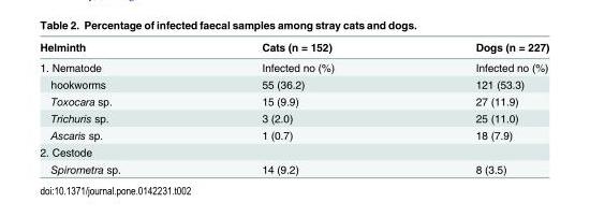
<table><thead><tr><td>Helminth</td><td>Cats (n = 152)</td><td>Dogs (n = 227)</td></tr></thead><tbody><tr><td>1. Nematode</td><td>Infected no (%)</td><td>Infected no (%)</td></tr><tr><td>hookworms</td><td>55 (36.2)</td><td>121 (53.3)</td></tr><tr><td>Toxocara sp.</td><td>15 (9.9)</td><td>27 (11.9)</td></tr><tr><td>Trichuris sp.</td><td>3 (2.0)</td><td>25 (11.0)</td></tr><tr><td>Ascaris sp.</td><td>1 (0.7)</td><td>18 (7.9)</td></tr><tr><td colspan="3">2. Cestode</td></tr><tr><td>Spirometra sp.</td><td>14 (9.2)</td><td>8 (3.5)</td></tr></tbody></table>